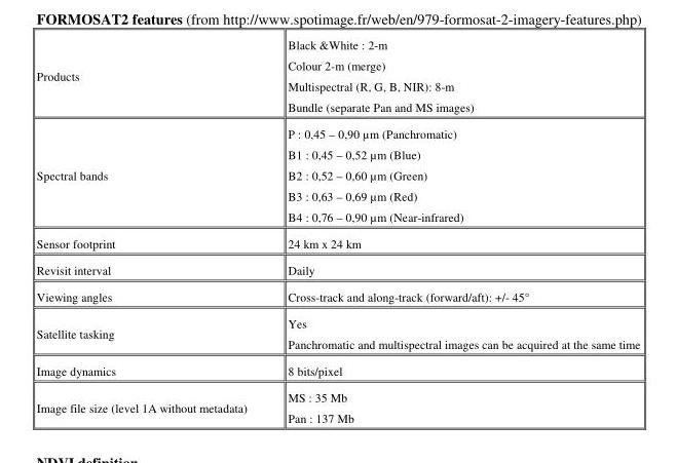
<table><tbody><tr><td rowspan="4">Products</td><td>Black &amp;White : 2-m</td></tr><tr><td>Colour 2-m (merge)</td></tr><tr><td>Multispectral (R, G, B, NIR): 8-m</td></tr><tr><td>Bundle (separate Pan and MS images)</td></tr><tr><td rowspan="5">Spectral bands</td><td>P : 0,45 – 0,90 µm (Panchromatic)</td></tr><tr><td>B1 : 0,45 – 0,52 µm (Blue)</td></tr><tr><td>B2 : 0,52 – 0,60 µm (Green)</td></tr><tr><td>B3 : 0,63 – 0,69 µm (Red)</td></tr><tr><td>B4 : 0,76 – 0,90 µm (Near-infrared)</td></tr><tr><td>Sensor footprint</td><td>24 km x 24 km</td></tr><tr><td>Revisit interval</td><td>Daily</td></tr><tr><td>Viewing angles</td><td>Cross-track and along-track (forward/aft): +/- 45°</td></tr><tr><td rowspan="2">Satellite tasking</td><td>Yes</td></tr><tr><td>Panchromatic and multispectral images can be acquired at the same time</td></tr><tr><td>Image dynamics</td><td>8 bits/pixel</td></tr><tr><td rowspan="2">Image file size (level 1A without metadata)</td><td>MS : 35 Mb</td></tr><tr><td>Pan : 137 Mb</td></tr></tbody></table>